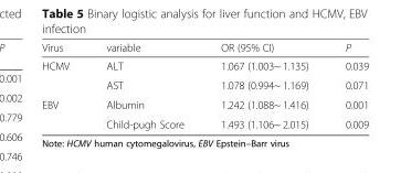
<table><thead><tr><td>Virus</td><td>variable</td><td>OR (95% CI)</td><td>P</td></tr></thead><tbody><tr><td rowspan="2">HCMV</td><td>ALT</td><td>1.067 (1.003~ 1.135)</td><td>0.039</td></tr><tr><td>AST</td><td>1.078 (0.994~ 1.169)</td><td>0.071</td></tr><tr><td rowspan="2">EBV</td><td>Albumin</td><td>1.242 (1.088~ 1.416)</td><td>0.001</td></tr><tr><td>Child-pugh Score</td><td>1.493 (1.106~ 2.015)</td><td>0.009</td></tr></tbody></table>